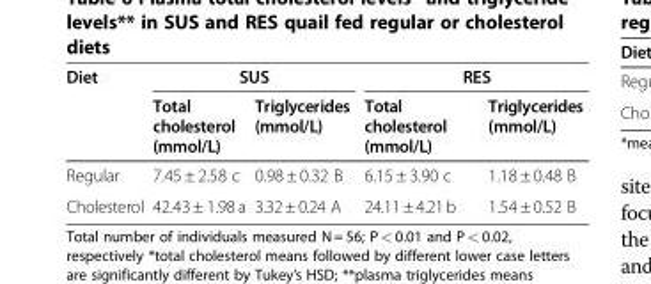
<table><thead><tr><td rowspan="2">Diet</td><td colspan="2">SUS</td><td colspan="2">RES</td></tr><tr><td>Total cholesterol (mmol/L)</td><td>Triglycerides (mmol/L)</td><td>Total cholesterol (mmol/L)</td><td>Triglycerides (mmol/L)</td></tr></thead><tbody><tr><td>Regular</td><td>7.45 ± 2.58 c</td><td>0.98 ± 0.32 B</td><td>6.15 ± 3.90 c</td><td>1.18 ± 0.48 B</td></tr><tr><td>Cholesterol</td><td>42.43 ± 1.98 a</td><td>3.32±0.24 A</td><td>24.11±4.21b</td><td>1.54 ± 0.52 B</td></tr></tbody></table>